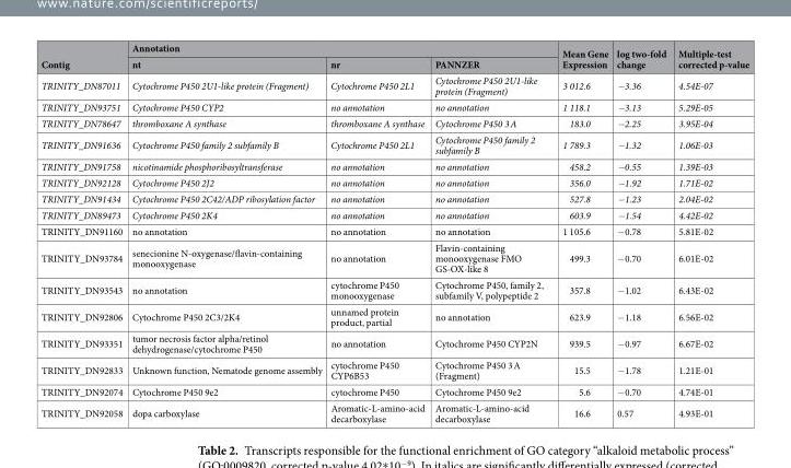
<table><thead><tr><td rowspan="2">Contig</td><td colspan="3">Annotation</td><td rowspan="2">Mean Gene Expression</td><td rowspan="2">log two-fold change</td><td rowspan="2">Multiple-test corrected p-value</td></tr><tr><td>nt</td><td>nr</td><td>PANNZER</td></tr></thead><tbody><tr><td>TRINITY_DN87011</td><td>Cytochrome P450 2U1-like protein (Fragment)</td><td>Cytochrome P450 2L1</td><td>Cytochrome P450 2U1-like protein (Fragment)</td><td>3 012.6</td><td>−3.36</td><td>4.54E-07</td></tr><tr><td>TRINITY_DN93751</td><td>Cytochrome P450 CYP2</td><td>no annotation</td><td>no annotation</td><td>1 118.1</td><td>−3.13</td><td>5.29E-05</td></tr><tr><td>TRINITY_DN78647</td><td>thromboxane A synthase</td><td>thromboxane A synthase</td><td>Cytochrome P450 3 A</td><td>183.0</td><td>−2.25</td><td>3.95E-04</td></tr><tr><td>TRINITY_DN91636</td><td>Cytochrome P450 family 2 subfamily B</td><td>Cytochrome P450 2L1</td><td>Cytochrome P450 family 2 subfamily B</td><td>1 789.3</td><td>−1.32</td><td>1.06E-03</td></tr><tr><td>TRINITY_DN91758</td><td>nicotinamide phosphoribosyltransferase</td><td>no annotation</td><td>no annotation</td><td>458.2</td><td>−0.55</td><td>1.39E-03</td></tr><tr><td>TRINITY_DN92128</td><td>Cytochrome P450 2J2</td><td>no annotation</td><td>no annotation</td><td>356.0</td><td>−1.92</td><td>1.71E-02</td></tr><tr><td>TRINITY_DN91434</td><td>Cytochrome P450 2C42/ADP ribosylation factor</td><td>no annotation</td><td>no annotation</td><td>527.8</td><td>−1.23</td><td>2.04E-02</td></tr><tr><td>TRINITY_DN89473</td><td>Cytochrome P450 2K4</td><td>no annotation</td><td>no annotation</td><td>603.9</td><td>−1.54</td><td>4.42E-02</td></tr><tr><td>TRINITY_DN91160</td><td>no annotation</td><td>no annotation</td><td>no annotation</td><td>1 105.6</td><td>−0.78</td><td>5.81E-02</td></tr><tr><td>TRINITY_DN93784</td><td>senecionine N-oxygenase/flavin-containing monooxygenase</td><td>no annotation</td><td>Flavin-containing monooxygenase FMO GS-OX-like 8</td><td>499.3</td><td>−0.70</td><td>6.01E-02</td></tr><tr><td>TRINITY_DN93543</td><td>no annotation</td><td>cytochrome P450 monooxygenase</td><td>Cytochrome P450, family 2, subfamily V, polypeptide 2</td><td>357.8</td><td>−1.02</td><td>6.43E-02</td></tr><tr><td>TRINITY_DN92806</td><td>Cytochrome P450 2C3/2K4</td><td>unnamed protein product, partial</td><td>no annotation</td><td>623.9</td><td>−1.18</td><td>6.56E-02</td></tr><tr><td>TRINITY_DN93351</td><td>tumor necrosis factor alpha/retinol dehydrogenase/cytochrome P450</td><td>no annotation</td><td>Cytochrome P450 CYP2N</td><td>939.5</td><td>−0.97</td><td>6.67E-02</td></tr><tr><td>TRINITY_DN92833</td><td>Unknown function, Nematode genome assembly</td><td>cytochrome P450 CYP6B53</td><td>Cytochrome P450 3 A (Fragment)</td><td>15.5</td><td>−1.78</td><td>1.21E-01</td></tr><tr><td>TRINITY_DN92074</td><td>Cytochrome P450 9e2</td><td>cytochrome P450</td><td>Cytochrome P450 9e2</td><td>5.6</td><td>−0.70</td><td>4.74E-01</td></tr><tr><td>TRINITY_DN92058</td><td>dopa carboxylase</td><td>Aromatic-L-amino-acid decarboxylase</td><td>Aromatic-L-amino-acid decarboxylase</td><td>16.6</td><td>0.57</td><td>4.93E-01</td></tr></tbody></table>